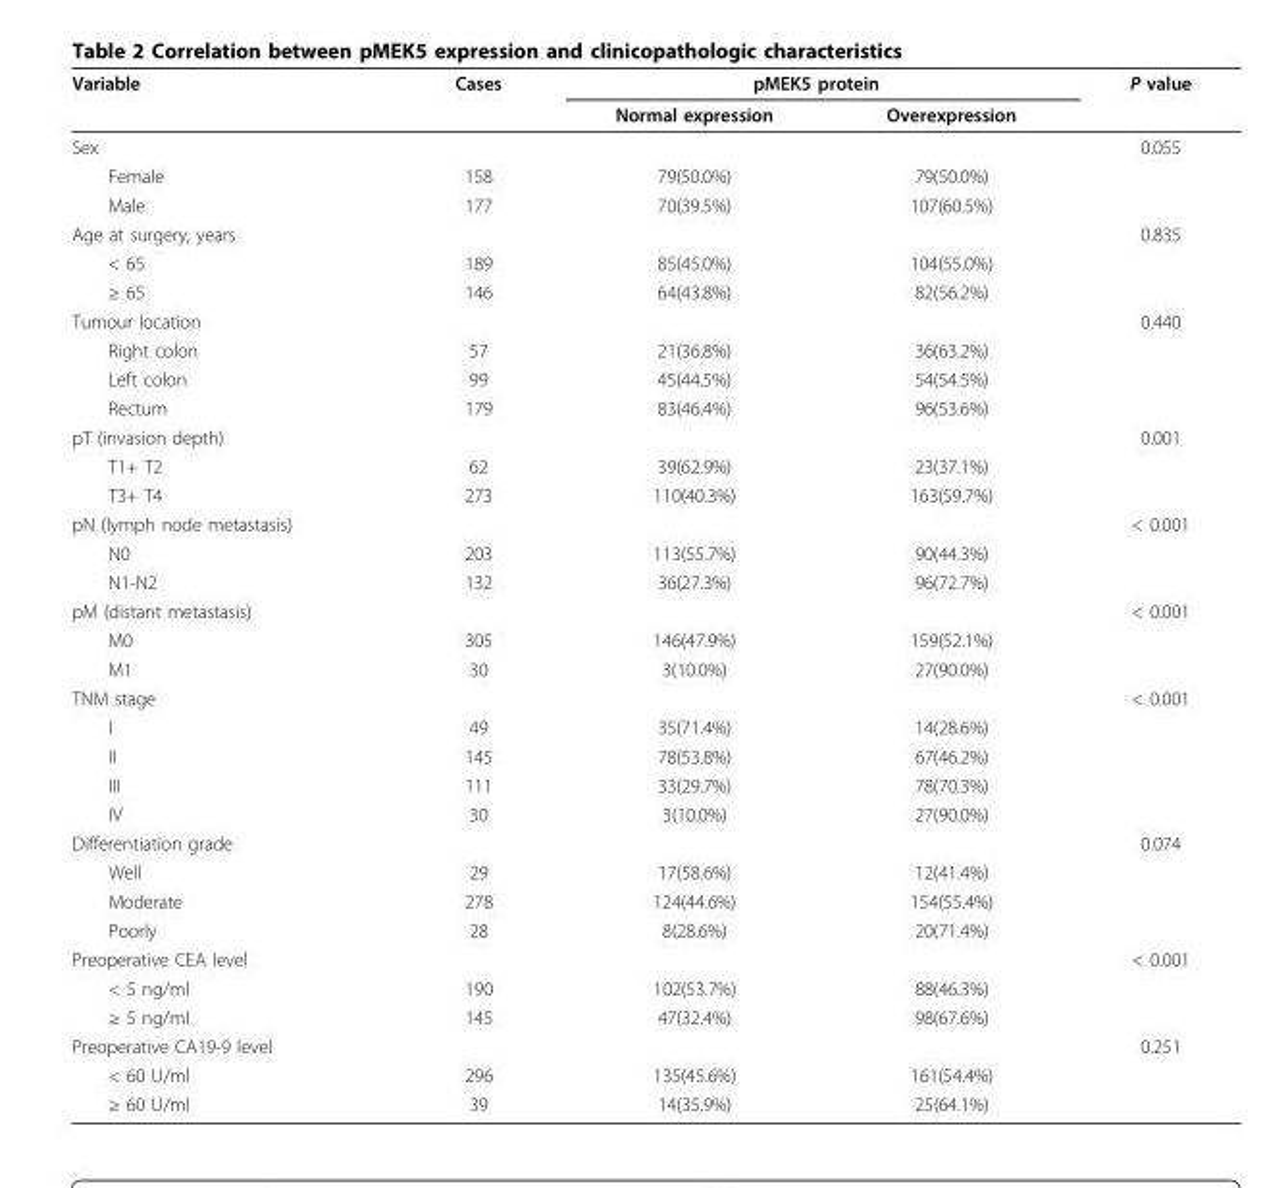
<table><thead><tr><td rowspan="2">Variable</td><td rowspan="2">Cases</td><td colspan="2">pMEK5 protein</td><td rowspan="2">P value</td></tr><tr><td>Normal expression</td><td>Overexpression</td></tr></thead><tbody><tr><td>Sex</td><td></td><td></td><td></td><td>0.055</td></tr><tr><td>Female</td><td>158</td><td>79(50.0%)</td><td>79(50.0%)</td><td></td></tr><tr><td>Male</td><td>177</td><td>70(39.5%)</td><td>107(60.5%)</td><td></td></tr><tr><td>Age at surgery, years</td><td></td><td></td><td></td><td>0.835</td></tr><tr><td>&lt; 65</td><td>189</td><td>85(45.0%)</td><td>104(55.0%)</td><td></td></tr><tr><td>≥ 65</td><td>146</td><td>64(43.8%)</td><td>82(56.2%)</td><td></td></tr><tr><td>Tumour location</td><td></td><td></td><td></td><td>0.440</td></tr><tr><td>Right colon</td><td>57</td><td>21(36.8%)</td><td>36(63.2%)</td><td></td></tr><tr><td>Left colon</td><td>99</td><td>45(44.5%)</td><td>54(54.5%)</td><td></td></tr><tr><td>Rectum</td><td>179</td><td>83(46.4%)</td><td>96(53.6%)</td><td></td></tr><tr><td>pT (invasion depth)</td><td></td><td></td><td></td><td>0.001</td></tr><tr><td>T1+ T2</td><td>62</td><td>39(62.9%)</td><td>23(37.1%)</td><td></td></tr><tr><td>T3+ T4</td><td>273</td><td>110(40.3%)</td><td>163(59.7%)</td><td></td></tr><tr><td>pN (lymph node metastasis)</td><td></td><td></td><td></td><td>&lt; 0.001</td></tr><tr><td>N0</td><td>203</td><td>113(55.7%)</td><td>90(44.3%)</td><td></td></tr><tr><td>N1-N2</td><td>132</td><td>36(27.3%)</td><td>96(72.7%)</td><td></td></tr><tr><td>pM (distant metastasis)</td><td></td><td></td><td></td><td>&lt; 0.001</td></tr><tr><td>M0</td><td>305</td><td>146(47.9%)</td><td>159(52.1%)</td><td></td></tr><tr><td>M1</td><td>30</td><td>3(10.0%)</td><td>27(90.0%)</td><td></td></tr><tr><td>TNM stage</td><td></td><td></td><td></td><td>&lt; 0.001</td></tr><tr><td>I</td><td>49</td><td>35(71.4%)</td><td>14(28.6%)</td><td></td></tr><tr><td>II</td><td>145</td><td>78(53.8%)</td><td>67(46.2%)</td><td></td></tr><tr><td>III</td><td>111</td><td>33(29.7%)</td><td>78(70.3%)</td><td></td></tr><tr><td>IV</td><td>30</td><td>3(10.0%)</td><td>27(90.0%)</td><td></td></tr><tr><td>Differentiation grade</td><td></td><td></td><td></td><td>0.074</td></tr><tr><td>Well</td><td>29</td><td>17(58.6%)</td><td>12(41.4%)</td><td></td></tr><tr><td>Moderate</td><td>278</td><td>124(44.6%)</td><td>154(55.4%)</td><td></td></tr><tr><td>Poorly</td><td>28</td><td>8(28.6%)</td><td>20(71.4%)</td><td></td></tr><tr><td>Preoperative CEA level</td><td></td><td></td><td></td><td>&lt; 0.001</td></tr><tr><td>&lt; 5 ng/ml</td><td>190</td><td>102(53.7%)</td><td>88(46.3%)</td><td></td></tr><tr><td>≥ 5 ng/ml</td><td>145</td><td>47(32.4%)</td><td>98(67.6%)</td><td></td></tr><tr><td>Preoperative CA19-9 level</td><td></td><td></td><td></td><td>0.251</td></tr><tr><td>&lt; 60 U/ml</td><td>296</td><td>135(45.6%)</td><td>161(54.4%)</td><td></td></tr><tr><td>≥ 60 U/ml</td><td>39</td><td>14(35.9%)</td><td>25(64.1%)</td><td></td></tr></tbody></table>